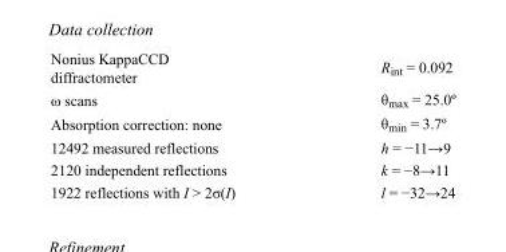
<table><tbody><tr><td>Nonius KappaCCD diffractometer</td><td>R<sub>int</sub> = 0.092</td></tr><tr><td>ω scans</td><td>θ<sub>max</sub> = 25.0º</td></tr><tr><td>Absorption correction: none</td><td>θ<sub>min</sub> = 3.7º</td></tr><tr><td>12492 measured reflections</td><td>h = −11→9</td></tr><tr><td>2120 independent reflections</td><td>k = −8→11</td></tr><tr><td>1922 reflections with I &gt; 2σ(I)</td><td>l = −32→24</td></tr></tbody></table>